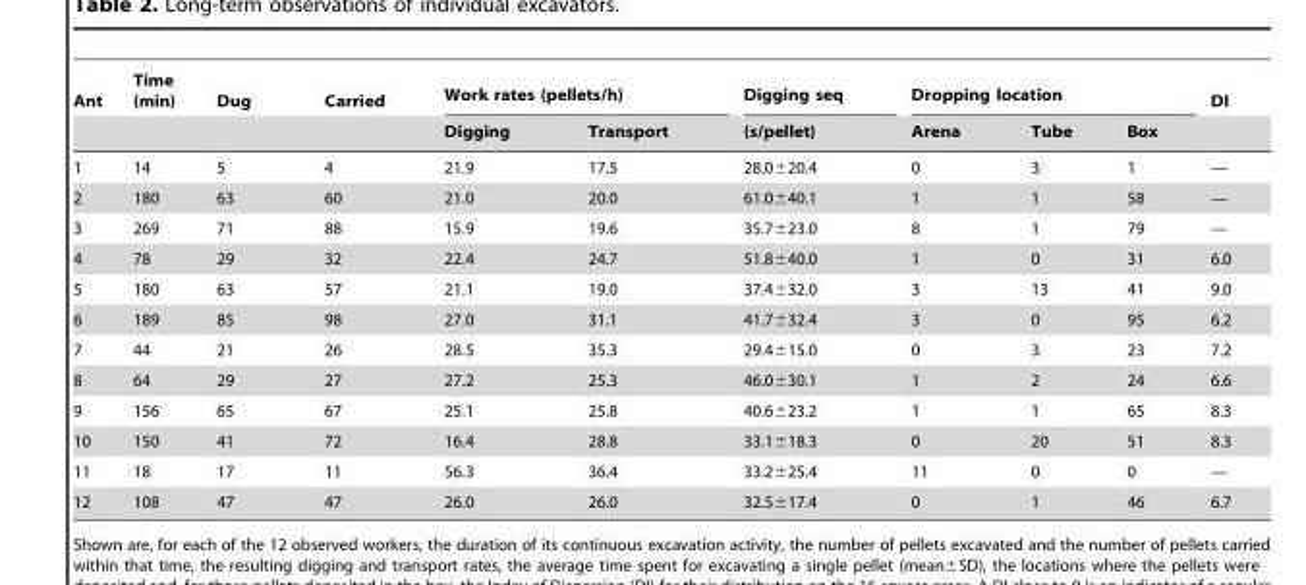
<table><thead><tr><td rowspan="2">Ant</td><td rowspan="2">Time (min)</td><td rowspan="2">Dug</td><td rowspan="2">Carried</td><td colspan="2">Work rates (pellets/h)</td><td rowspan="2">Digging seq (s/pellet)</td><td colspan="3">Dropping location</td><td rowspan="2">DI</td></tr><tr><td>Digging</td><td>Transport</td><td>Arena</td><td>Tube</td><td>Box</td></tr></thead><tbody><tr><td>1</td><td>14</td><td>5</td><td>4</td><td>21.9</td><td>17.5</td><td>28.0±20.4</td><td>0</td><td>3</td><td>1</td><td>—</td></tr><tr><td>2</td><td>180</td><td>63</td><td>60</td><td>21.0</td><td>20.0</td><td>61.0±40.1</td><td>1</td><td>1</td><td>58</td><td>—</td></tr><tr><td>3</td><td>269</td><td>71</td><td>88</td><td>15.9</td><td>19.6</td><td>35.7±23.0</td><td>8</td><td>1</td><td>79</td><td>—</td></tr><tr><td>4</td><td>78</td><td>29</td><td>32</td><td>22.4</td><td>24.7</td><td>51.8±40.0</td><td>1</td><td>0</td><td>31</td><td>6.0</td></tr><tr><td>5</td><td>180</td><td>63</td><td>57</td><td>21.1</td><td>19.0</td><td>37.4±32.0</td><td>3</td><td>13</td><td>41</td><td>9.0</td></tr><tr><td>6</td><td>189</td><td>85</td><td>98</td><td>27.0</td><td>31.1</td><td>41.7±32.4</td><td>3</td><td>0</td><td>95</td><td>6.2</td></tr><tr><td>7</td><td>44</td><td>21</td><td>26</td><td>28.5</td><td>35.3</td><td>29.4±15.0</td><td>0</td><td>3</td><td>23</td><td>7.2</td></tr><tr><td>8</td><td>64</td><td>29</td><td>27</td><td>27.2</td><td>25.3</td><td>46.0±30.1</td><td>1</td><td>2</td><td>24</td><td>6.6</td></tr><tr><td>9</td><td>156</td><td>65</td><td>67</td><td>25.1</td><td>25.8</td><td>40.6±23.2</td><td>1</td><td>1</td><td>65</td><td>8.3</td></tr><tr><td>10</td><td>150</td><td>41</td><td>72</td><td>16.4</td><td>28.8</td><td>33.1±18.3</td><td>0</td><td>20</td><td>51</td><td>8.3</td></tr><tr><td>11</td><td>18</td><td>17</td><td>11</td><td>56.3</td><td>36.4</td><td>33.2±25.4</td><td>11</td><td>0</td><td>0</td><td>—</td></tr><tr><td>12</td><td>108</td><td>47</td><td>47</td><td>26.0</td><td>26.0</td><td>32.5±17.4</td><td>0</td><td>1</td><td>46</td><td>6.7</td></tr></tbody></table>